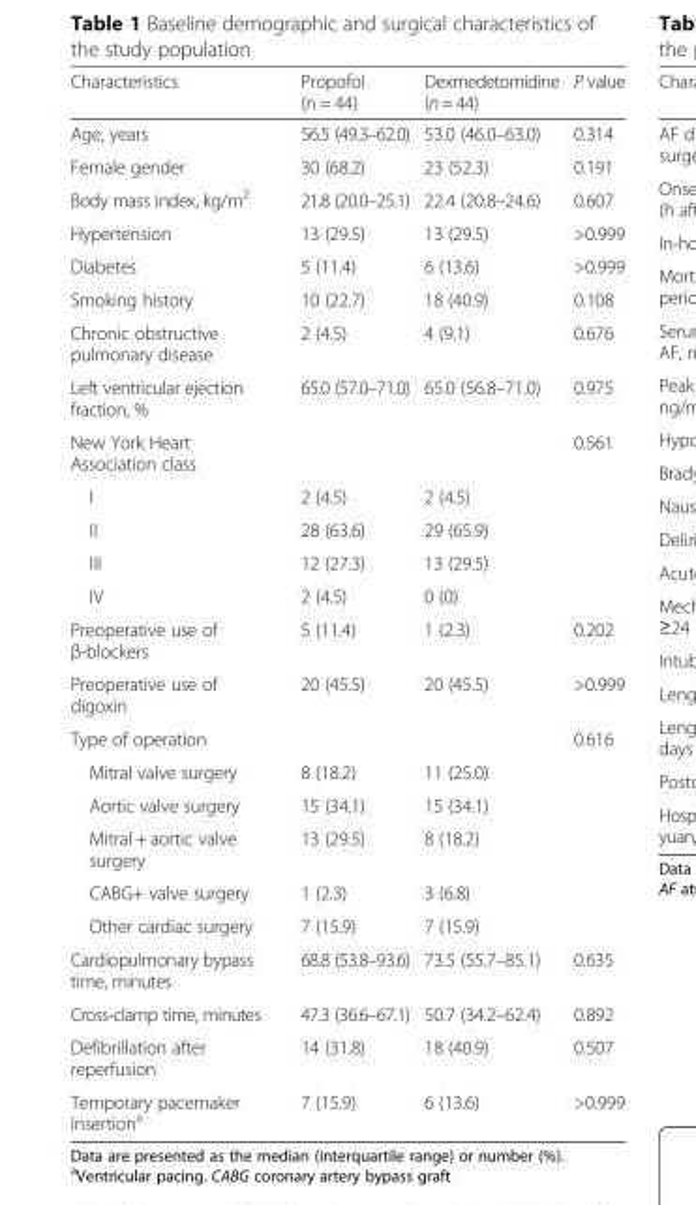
<table><thead><tr><td>Characteristics</td><td>Propofol (n = 44)</td><td>Dexmedetomidine (n = 44)</td><td>P value</td></tr></thead><tbody><tr><td>Age, years</td><td>56.5 (49.3–62.0)</td><td>53.0 (46.0–63.0)</td><td>0.314</td></tr><tr><td>Female gender</td><td>30 (68.2)</td><td>23 (52.3)</td><td>0.191</td></tr><tr><td>Body mass index, kg/m<sup>2</sup></td><td>21.8 (20.0–25.1)</td><td>22.4 (20.8–24.6)</td><td>0.607</td></tr><tr><td>Hypertension</td><td>13 (29.5)</td><td>13 (29.5)</td><td>&gt;0.999</td></tr><tr><td>Diabetes</td><td>5 (11.4)</td><td>6 (13.6)</td><td>&gt;0.999</td></tr><tr><td>Smoking history</td><td>10 (22.7)</td><td>18 (40.9)</td><td>0.108</td></tr><tr><td>Chronic obstructive pulmonary disease</td><td>2 (4.5)</td><td>4 (9.1)</td><td>0.676</td></tr><tr><td>Left ventricular ejection fraction, %</td><td>65.0 (57.0–71.0)</td><td>65.0 (56.8–71.0)</td><td>0.975</td></tr><tr><td>New York Heart Association class</td><td></td><td></td><td>0.561</td></tr><tr><td>I</td><td>2 (4.5)</td><td>2 (4.5)</td><td></td></tr><tr><td>II</td><td>28 (63.6)</td><td>29 (65.9)</td><td></td></tr><tr><td>III</td><td>12 (27.3)</td><td>13 (29.5)</td><td></td></tr><tr><td>IV</td><td>2 (4.5)</td><td>0 (0)</td><td></td></tr><tr><td>Preoperative use of β-blockers</td><td>5 (11.4)</td><td>1 (2.3)</td><td>0.202</td></tr><tr><td>Preoperative use of digoxin</td><td>20 (45.5)</td><td>20 (45.5)</td><td>&gt;0.999</td></tr><tr><td>Type of operation</td><td></td><td></td><td>0.616</td></tr><tr><td>Mitral valve surgery</td><td>8 (18.2)</td><td>11 (25.0)</td><td></td></tr><tr><td>Aortic valve surgery</td><td>15 (34.1)</td><td>15 (34.1)</td><td></td></tr><tr><td>Mitral + aortic valve surgery</td><td>13 (29.5)</td><td>8 (18.2)</td><td></td></tr><tr><td>CABG+ valve surgery</td><td>1 (2.3)</td><td>3 (6.8)</td><td></td></tr><tr><td>Other cardiac surgery</td><td>7 (15.9)</td><td>7 (15.9)</td><td></td></tr><tr><td>Cardiopulmonary bypass time, minutes</td><td>68.8 (53.8–93.6)</td><td>73.5 (55.7–85.1)</td><td>0.635</td></tr><tr><td>Cross-clamp time, minutes</td><td>47.3 (36.6–67.1)</td><td>50.7 (34.2–62.4)</td><td>0.892</td></tr><tr><td>Defibrillation after reperfusion</td><td>14 (31.8)</td><td>18 (40.9)</td><td>0.507</td></tr><tr><td>Temporary pacemaker insertion<sup>a</sup></td><td>7 (15.9)</td><td>6 (13.6)</td><td>&gt;0.999</td></tr></tbody></table>